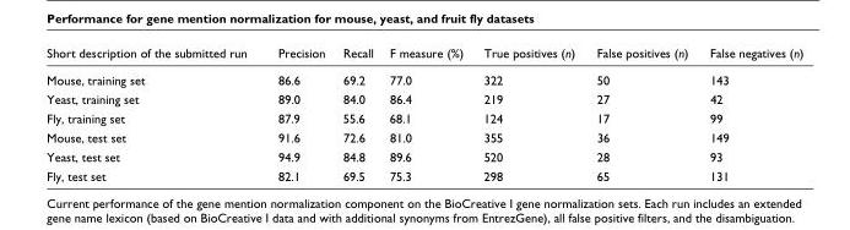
<table><thead><tr><td>Short description of the submitted run</td><td>Precision</td><td>Recall</td><td>F measure (%)</td><td>True positives (n)</td><td>False positives (n)</td><td>False negatives (n)</td></tr></thead><tbody><tr><td>Mouse, training set</td><td>86.6</td><td>69.2</td><td>77.0</td><td>322</td><td>50</td><td>143</td></tr><tr><td>Yeast, training set</td><td>89.0</td><td>84.0</td><td>86.4</td><td>219</td><td>27</td><td>42</td></tr><tr><td>Fly, training set</td><td>87.9</td><td>55.6</td><td>68.1</td><td>124</td><td>17</td><td>99</td></tr><tr><td>Mouse, test set</td><td>91.6</td><td>72.6</td><td>81.0</td><td>355</td><td>36</td><td>149</td></tr><tr><td>Yeast, test set</td><td>94.9</td><td>84.8</td><td>89.6</td><td>520</td><td>28</td><td>93</td></tr><tr><td>Fly, test set</td><td>82.1</td><td>69.5</td><td>75.3</td><td>298</td><td>65</td><td>131</td></tr></tbody></table>